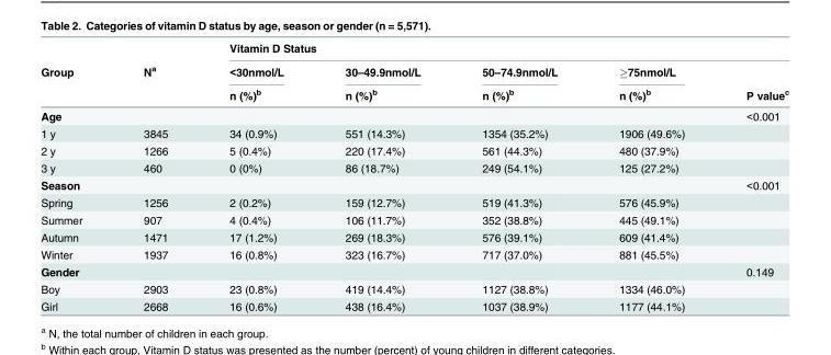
<table><thead><tr><td rowspan="3">Group</td><td rowspan="3">N<sup>a</sup></td><td colspan="5">Vitamin D Status</td></tr><tr><td rowspan="2">&lt;30nmol/L n (%)<sup>b</sup></td><td rowspan="2">30–49.9nmol/L n (%)<sup>b</sup></td><td rowspan="2">50–74.9nmol/L n (%)<sup>b</sup></td><td rowspan="2">≥75nmol/L n (%)<sup>b</sup></td><td rowspan="2">P value<sup>c</sup></td></tr><tr></tr></thead><tbody><tr><td>Age</td><td></td><td></td><td></td><td></td><td></td><td>&lt;0.001</td></tr><tr><td>1 y</td><td>3845</td><td>34 (0.9%)</td><td>551 (14.3%)</td><td>1354 (35.2%)</td><td>1906 (49.6%)</td><td></td></tr><tr><td>2 y</td><td>1266</td><td>5 (0.4%)</td><td>220 (17.4%)</td><td>561 (44.3%)</td><td>480 (37.9%)</td><td></td></tr><tr><td>3 y</td><td>460</td><td>0 (0%)</td><td>86 (18.7%)</td><td>249 (54.1%)</td><td>125 (27.2%)</td><td></td></tr><tr><td>Season</td><td></td><td></td><td></td><td></td><td></td><td>&lt;0.001</td></tr><tr><td>Spring</td><td>1256</td><td>2 (0.2%)</td><td>159 (12.7%)</td><td>519 (41.3%)</td><td>576 (45.9%)</td><td></td></tr><tr><td>Summer</td><td>907</td><td>4 (0.4%)</td><td>106 (11.7%)</td><td>352 (38.8%)</td><td>445 (49.1%)</td><td></td></tr><tr><td>Autumn</td><td>1471</td><td>17 (1.2%)</td><td>269 (18.3%)</td><td>576 (39.1%)</td><td>609 (41.4%)</td><td></td></tr><tr><td>Winter</td><td>1937</td><td>16 (0.8%)</td><td>323 (16.7%)</td><td>717 (37.0%)</td><td>881 (45.5%)</td><td></td></tr><tr><td>Gender</td><td></td><td></td><td></td><td></td><td></td><td>0.149</td></tr><tr><td>Boy</td><td>2903</td><td>23 (0.8%)</td><td>419 (14.4%)</td><td>1127 (38.8%)</td><td>1334 (46.0%)</td><td></td></tr><tr><td>Girl</td><td>2668</td><td>16 (0.6%)</td><td>438 (16.4%)</td><td>1037 (38.9%)</td><td>1177 (44.1%)</td><td></td></tr></tbody></table>